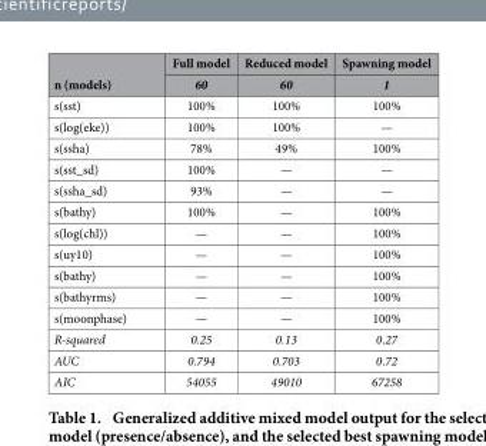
<table><thead><tr><td rowspan="2">n (models)</td><td rowspan="2">Full model 60</td><td rowspan="2">Reduced model 60</td><td rowspan="2">Spawning model 1</td></tr><tr></tr></thead><tbody><tr><td>s(sst)</td><td>100%</td><td>100%</td><td>100%</td></tr><tr><td>s(log(eke))</td><td>100%</td><td>100%</td><td>—</td></tr><tr><td>s(ssha)</td><td>78%</td><td>49%</td><td>100%</td></tr><tr><td>s(sst_sd)</td><td>100%</td><td>—</td><td>—</td></tr><tr><td>s(ssha_sd)</td><td>93%</td><td>—</td><td>—</td></tr><tr><td>s(bathy)</td><td>100%</td><td>—</td><td>100%</td></tr><tr><td>s(log(chl))</td><td>—</td><td>—</td><td>100%</td></tr><tr><td>s(uy10)</td><td>—</td><td>—</td><td>100%</td></tr><tr><td>s(bathy)</td><td>—</td><td>—</td><td>100%</td></tr><tr><td>s(bathyrms)</td><td>—</td><td>—</td><td>100%</td></tr><tr><td>s(moonphase)</td><td>—</td><td>—</td><td>100%</td></tr><tr><td>R-squared</td><td>0.25</td><td>0.13</td><td>0.27</td></tr><tr><td>AUC</td><td>0.794</td><td>0.703</td><td>0.72</td></tr><tr><td>AIC</td><td>54055</td><td>49010</td><td>67258</td></tr></tbody></table>